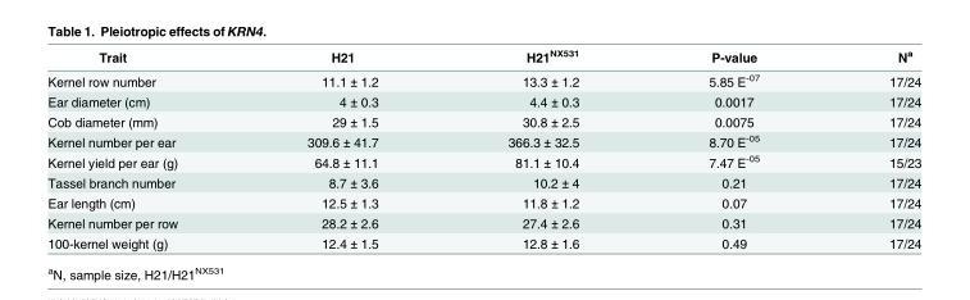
<table><thead><tr><td>Trait</td><td>H21</td><td>H21<sup>NX531</sup></td><td>P-value</td><td>N<sup>a</sup></td></tr></thead><tbody><tr><td>Kernel row number</td><td>11.1 ± 1.2</td><td>13.3 ± 1.2</td><td>5.85 E<sup>-07</sup></td><td>17/24</td></tr><tr><td>Ear diameter (cm)</td><td>4 ± 0.3</td><td>4.4 ± 0.3</td><td>0.0017</td><td>17/24</td></tr><tr><td>Cob diameter (mm)</td><td>29 ± 1.5</td><td>30.8 ± 2.5</td><td>0.0075</td><td>17/24</td></tr><tr><td>Kernel number per ear</td><td>309.6 ± 41.7</td><td>366.3 ± 32.5</td><td>8.70 E<sup>-05</sup></td><td>17/24</td></tr><tr><td>Kernel yield per ear (g)</td><td>64.8 ± 11.1</td><td>81.1 ± 10.4</td><td>7.47 E<sup>-05</sup></td><td>15/23</td></tr><tr><td>Tassel branch number</td><td>8.7 ± 3.6</td><td>10.2 ± 4</td><td>0.21</td><td>17/24</td></tr><tr><td>Ear length (cm)</td><td>12.5 ± 1.3</td><td>11.8 ± 1.2</td><td>0.07</td><td>17/24</td></tr><tr><td>Kernel number per row</td><td>28.2 ± 2.6</td><td>27.4 ± 2.6</td><td>0.31</td><td>17/24</td></tr><tr><td>100-kernel weight (g)</td><td>12.4 ± 1.5</td><td>12.8 ± 1.6</td><td>0.49</td><td>17/24</td></tr></tbody></table>